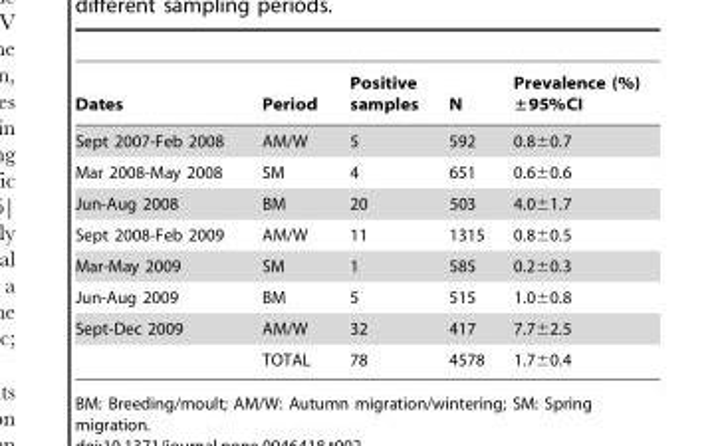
<table><thead><tr><td>Dates</td><td>Period</td><td>Positive samples</td><td>N</td><td>Prevalence (%) ±95%CI</td></tr></thead><tbody><tr><td>Sept 2007-Feb 2008</td><td>AM/W</td><td>5</td><td>592</td><td>0.8±0.7</td></tr><tr><td>Mar 2008-May 2008</td><td>SM</td><td>4</td><td>651</td><td>0.6±0.6</td></tr><tr><td>Jun-Aug 2008</td><td>BM</td><td>20</td><td>503</td><td>4.0±1.7</td></tr><tr><td>Sept 2008-Feb 2009</td><td>AM/W</td><td>11</td><td>1315</td><td>0.8±0.5</td></tr><tr><td>Mar-May 2009</td><td>SM</td><td>1</td><td>585</td><td>0.2±0.3</td></tr><tr><td>Jun-Aug 2009</td><td>BM</td><td>5</td><td>515</td><td>1.0±0.8</td></tr><tr><td rowspan="2">Sept-Dec 2009</td><td>AM/W</td><td>32</td><td>417</td><td>7.7±2.5</td></tr><tr><td>TOTAL</td><td>78</td><td>4578</td><td>1.7±0.4</td></tr></tbody></table>